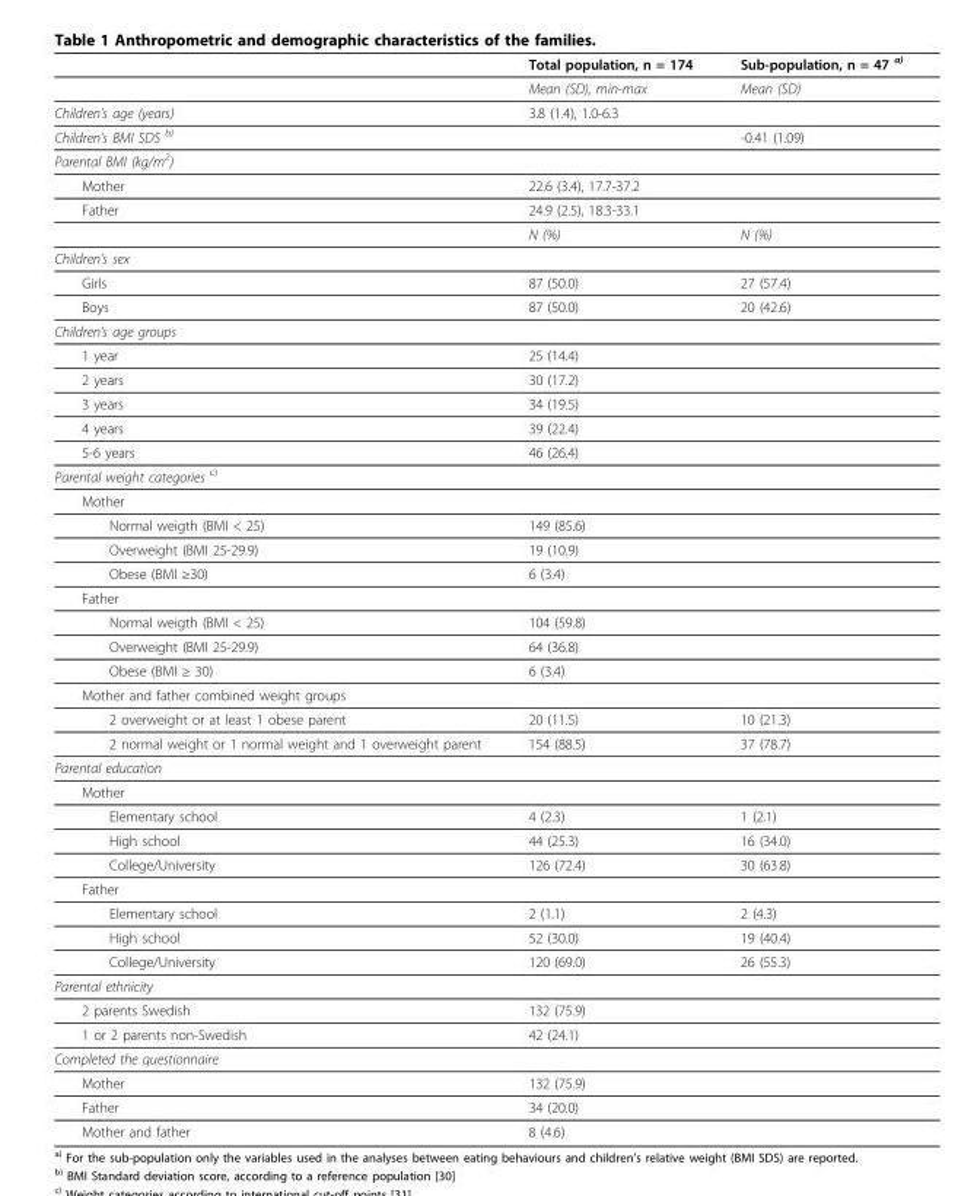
<table><thead><tr><td></td><td>Total population, n = 174</td><td>Sub-population, n = 47 <sup>a)</sup></td></tr></thead><tbody><tr><td></td><td>Mean (SD), min-max</td><td>Mean (SD)</td></tr><tr><td>Children’s age (years)</td><td>3.8 (1.4), 1.0-6.3</td><td></td></tr><tr><td>Children’s BMI SDS <sup>b)</sup></td><td></td><td>-0.41 (1.09)</td></tr><tr><td colspan="3">Parental BMI (kg/m<sup>2</sup>)</td></tr><tr><td>Mother</td><td>22.6 (3.4), 17.7-37.2</td><td></td></tr><tr><td rowspan="2">Father</td><td>24.9 (2.5), 18.3-33.1</td><td></td></tr><tr><td>N (%)</td><td>N (%)</td></tr><tr><td colspan="3">Children’s sex</td></tr><tr><td>Girls</td><td>87 (50.0)</td><td>27 (57.4)</td></tr><tr><td>Boys</td><td>87 (50.0)</td><td>20 (42.6)</td></tr><tr><td colspan="3">Children’s age groups</td></tr><tr><td>1 year</td><td>25 (14.4)</td><td></td></tr><tr><td>2 years</td><td>30 (17.2)</td><td></td></tr><tr><td>3 years</td><td>34 (19.5)</td><td></td></tr><tr><td>4 years</td><td>39 (22.4)</td><td></td></tr><tr><td>5-6 years</td><td>46 (26.4)</td><td></td></tr><tr><td colspan="3">Parental weight categories <sup>c)</sup></td></tr><tr><td colspan="3">Mother</td></tr><tr><td>Normal weigth (BMI &lt; 25)</td><td>149 (85.6)</td><td></td></tr><tr><td>Overweight (BMI 25-29.9)</td><td>19 (10.9)</td><td></td></tr><tr><td>Obese (BMI ≥30)</td><td>6 (3.4)</td><td></td></tr><tr><td colspan="3">Father</td></tr><tr><td>Normal weigth (BMI &lt; 25)</td><td>104 (59.8)</td><td></td></tr><tr><td>Overweight (BMI 25-29.9)</td><td>64 (36.8)</td><td></td></tr><tr><td>Obese (BMI ≥ 30)</td><td>6 (3.4)</td><td></td></tr><tr><td colspan="3">Mother and father combined weight groups</td></tr><tr><td>2 overweight or at least 1 obese parent</td><td>20 (11.5)</td><td>10 (21.3)</td></tr><tr><td>2 normal weight or 1 normal weight and 1 overweight parent</td><td>154 (88.5)</td><td>37 (78.7)</td></tr><tr><td colspan="3">Parental education</td></tr><tr><td colspan="3">Mother</td></tr><tr><td>Elementary school</td><td>4 (2.3)</td><td>1 (2.1)</td></tr><tr><td>High school</td><td>44 (25.3)</td><td>16 (34.0)</td></tr><tr><td>College/University</td><td>126 (72.4)</td><td>30 (63.8)</td></tr><tr><td colspan="3">Father</td></tr><tr><td>Elementary school</td><td>2 (1.1)</td><td>2 (4.3)</td></tr><tr><td>High school</td><td>52 (30.0)</td><td>19 (40.4)</td></tr><tr><td>College/University</td><td>120 (69.0)</td><td>26 (55.3)</td></tr><tr><td colspan="3">Parental ethnicity</td></tr><tr><td>2 parents Swedish</td><td>132 (75.9)</td><td></td></tr><tr><td>1 or 2 parents non-Swedish</td><td>42 (24.1)</td><td></td></tr><tr><td colspan="3">Completed the questionnaire</td></tr><tr><td>Mother</td><td>132 (75.9)</td><td></td></tr><tr><td>Father</td><td>34 (20.0)</td><td></td></tr><tr><td>Mother and father</td><td>8 (4.6)</td><td></td></tr></tbody></table>